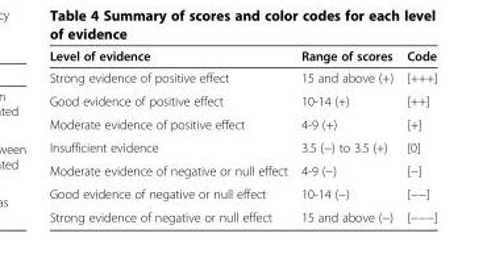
<table><thead><tr><td>Level of evidence</td><td>Range of scores</td><td>Code</td></tr></thead><tbody><tr><td>Strong evidence of positive effect</td><td>15 and above (+)</td><td>[+++]</td></tr><tr><td>Good evidence of positive effect</td><td>10-14 (+)</td><td>[++]</td></tr><tr><td>Moderate evidence of positive effect</td><td>4-9 (+)</td><td>[+]</td></tr><tr><td>Insufficient evidence</td><td>3.5 (−) to 3.5 (+)</td><td>[0]</td></tr><tr><td>Moderate evidence of negative or null effect</td><td>4-9 (−)</td><td>[−]</td></tr><tr><td>Good evidence of negative or null effect</td><td>10-14 (−)</td><td>[−−]</td></tr><tr><td>Strong evidence of negative or null effect</td><td>15 and above (−)</td><td>[−−−]</td></tr></tbody></table>